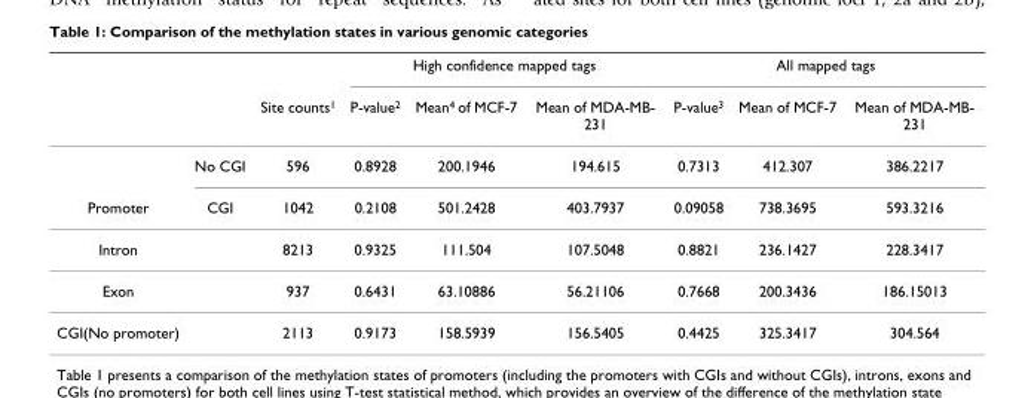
<table><thead><tr><td rowspan="2"></td><td rowspan="2"></td><td rowspan="2">Site counts<sup>1</sup></td><td colspan="3">High confidence mapped tags</td><td colspan="3">All mapped tags</td></tr><tr><td>P-value<sup>2</sup></td><td>Mean<sup>4</sup> of MCF-7</td><td>Mean of MDA-MB- 231</td><td>P-value<sup>3</sup></td><td>Mean of MCF-7</td><td>Mean of MDA-MB- 231</td></tr></thead><tbody><tr><td></td><td>No CGI</td><td>596</td><td>0.8928</td><td>200.1946</td><td>194.615</td><td>0.7313</td><td>412.307</td><td>386.2217</td></tr><tr><td>Promoter</td><td>CGI</td><td>1042</td><td>0.2108</td><td>501.2428</td><td>403.7937</td><td>0.09058</td><td>738.3695</td><td>593.3216</td></tr><tr><td>Intron</td><td></td><td>8213</td><td>0.9325</td><td>111.504</td><td>107.5048</td><td>0.8821</td><td>236.1427</td><td>228.3417</td></tr><tr><td>Exon</td><td></td><td>937</td><td>0.6431</td><td>63.10886</td><td>56.21106</td><td>0.7668</td><td>200.3436</td><td>186.15013</td></tr><tr><td>CGI(No promoter)</td><td></td><td>2113</td><td>0.9173</td><td>158.5939</td><td>156.5405</td><td>0.4425</td><td>325.3417</td><td>304.564</td></tr></tbody></table>